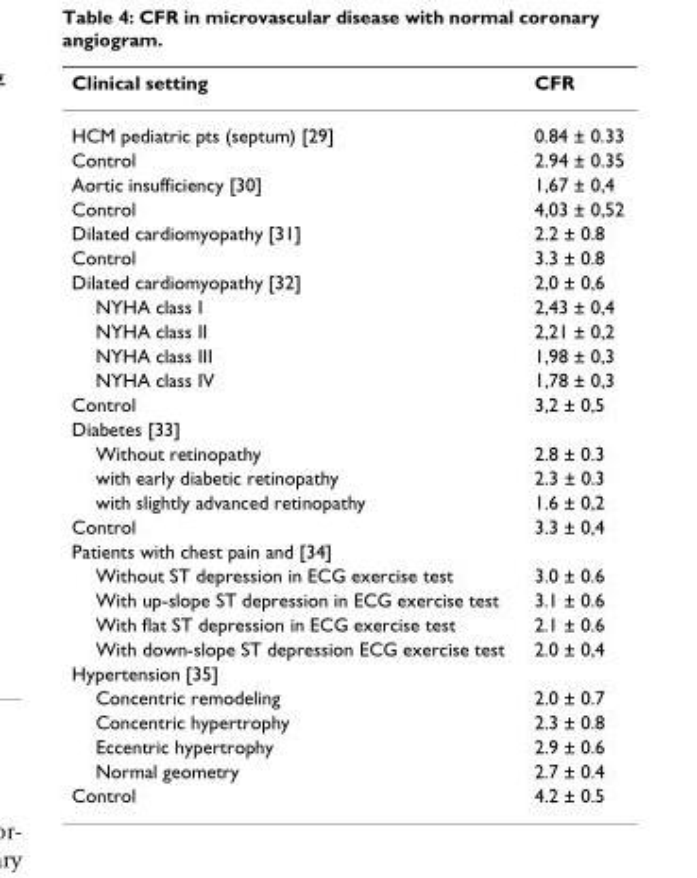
<table><thead><tr><td>Clinical setting</td><td>CFR</td></tr></thead><tbody><tr><td>HCM pediatric pts (septum) [29]</td><td>0.84 ± 0.33</td></tr><tr><td>Control</td><td>2.94 ± 0.35</td></tr><tr><td>Aortic insufficiency [30]</td><td>1,67 ± 0,4</td></tr><tr><td>Control</td><td>4,03 ± 0,52</td></tr><tr><td>Dilated cardiomyopathy [31]</td><td>2.2 ± 0.8</td></tr><tr><td>Control</td><td>3.3 ± 0.8</td></tr><tr><td>Dilated cardiomyopathy [32]</td><td>2,0 ± 0,6</td></tr><tr><td>NYHA class I</td><td>2,43 ± 0,4</td></tr><tr><td>NYHA class II</td><td>2,21 ± 0,2</td></tr><tr><td>NYHA class III</td><td>1,98 ± 0,3</td></tr><tr><td>NYHA class IV</td><td>1,78 ± 0,3</td></tr><tr><td>Control</td><td>3,2 ± 0,5</td></tr><tr><td colspan="2">Diabetes [33]</td></tr><tr><td>Without retinopathy</td><td>2.8 ± 0.3</td></tr><tr><td>with early diabetic retinopathy</td><td>2.3 ± 0.3</td></tr><tr><td>with slightly advanced retinopathy</td><td>1.6 ± 0,2</td></tr><tr><td>Control</td><td>3.3 ± 0,4</td></tr><tr><td colspan="2">Patients with chest pain and [34]</td></tr><tr><td>Without ST depression in ECG exercise test</td><td>3.0 ± 0.6</td></tr><tr><td>With up-slope ST depression in ECG exercise test</td><td>3.1 ± 0.6</td></tr><tr><td>With flat ST depression in ECG exercise test</td><td>2.1 ± 0.6</td></tr><tr><td>With down-slope ST depression ECG exercise test</td><td>2.0 ± 0,4</td></tr><tr><td colspan="2">Hypertension [35]</td></tr><tr><td>Concentric remodeling</td><td>2.0 ± 0.7</td></tr><tr><td>Concentric hypertrophy</td><td>2.3 ± 0.8</td></tr><tr><td>Eccentric hypertrophy</td><td>2.9 ± 0.6</td></tr><tr><td>Normal geometry</td><td>2.7 ± 0.4</td></tr><tr><td>Control</td><td>4.2 ± 0.5</td></tr></tbody></table>